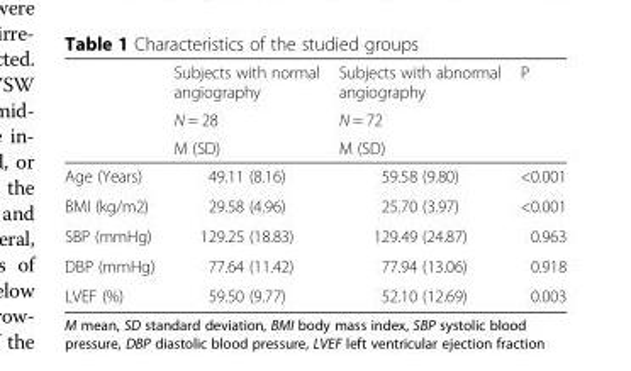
<table><thead><tr><td rowspan="3"></td><td rowspan="3">Subjects with normal angiography N = 28 M (SD)</td><td rowspan="3">Subjects with abnormal angiography N = 72 M (SD)</td><td rowspan="3">P</td></tr><tr></tr><tr></tr></thead><tbody><tr><td>Age (Years)</td><td>49.11 (8.16)</td><td>59.58 (9.80)</td><td>&lt;0.001</td></tr><tr><td>BMI (kg/m2)</td><td>29.58 (4.96)</td><td>25.70 (3.97)</td><td>&lt;0.001</td></tr><tr><td>SBP (mmHg)</td><td>129.25 (18.83)</td><td>129.49 (24.87)</td><td>0.963</td></tr><tr><td>DBP (mmHg)</td><td>77.64 (11.42)</td><td>77.94 (13.06)</td><td>0.918</td></tr><tr><td>LVEF (%)</td><td>59.50 (9.77)</td><td>52.10 (12.69)</td><td>0.003</td></tr></tbody></table>